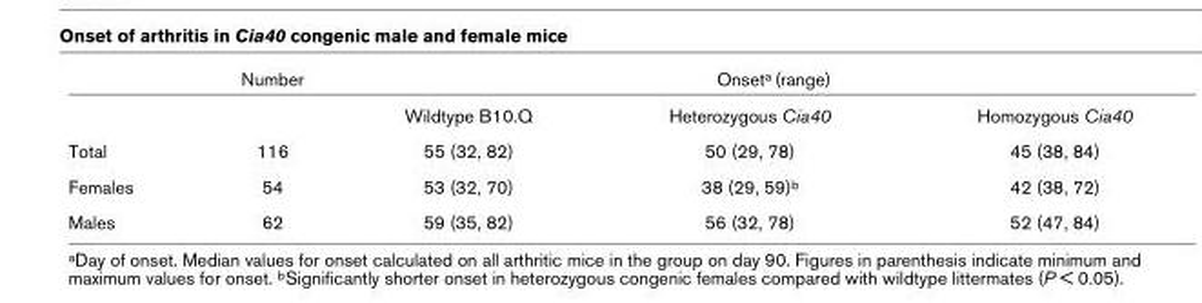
<table><thead><tr><td rowspan="2"></td><td rowspan="2">Number</td><td colspan="3">Onset<sup>a</sup> (range)</td></tr><tr><td>Wildtype B10.Q</td><td>Heterozygous Cia40</td><td>Homozygous Cia40</td></tr></thead><tbody><tr><td>Total</td><td>116</td><td>55 (32, 82)</td><td>50 (29, 78)</td><td>45 (38, 84)</td></tr><tr><td>Females</td><td>54</td><td>53 (32, 70)</td><td>38 (29, 59)<sup>b</sup></td><td>42 (38, 72)</td></tr><tr><td>Males</td><td>62</td><td>59 (35, 82)</td><td>56 (32, 78)</td><td>52 (47, 84)</td></tr></tbody></table>